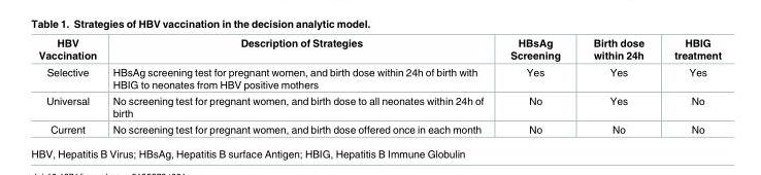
<table><thead><tr><td>HBV Vaccination</td><td>Description of Strategies</td><td>HBsAg Screening</td><td>Birth dose within 24h</td><td>HBIG treatment</td></tr></thead><tbody><tr><td>Selective</td><td>HBsAg screening test for pregnant women, and birth dose within 24h of birth with HBIG to neonates from HBV positive mothers</td><td>Yes</td><td>Yes</td><td>Yes</td></tr><tr><td>Universal</td><td>No screening test for pregnant women, and birth dose to all neonates within 24h of birth</td><td>No</td><td>Yes</td><td>No</td></tr><tr><td>Current</td><td>No screening test for pregnant women, and birth dose offered once in each month</td><td>No</td><td>No</td><td>No</td></tr></tbody></table>